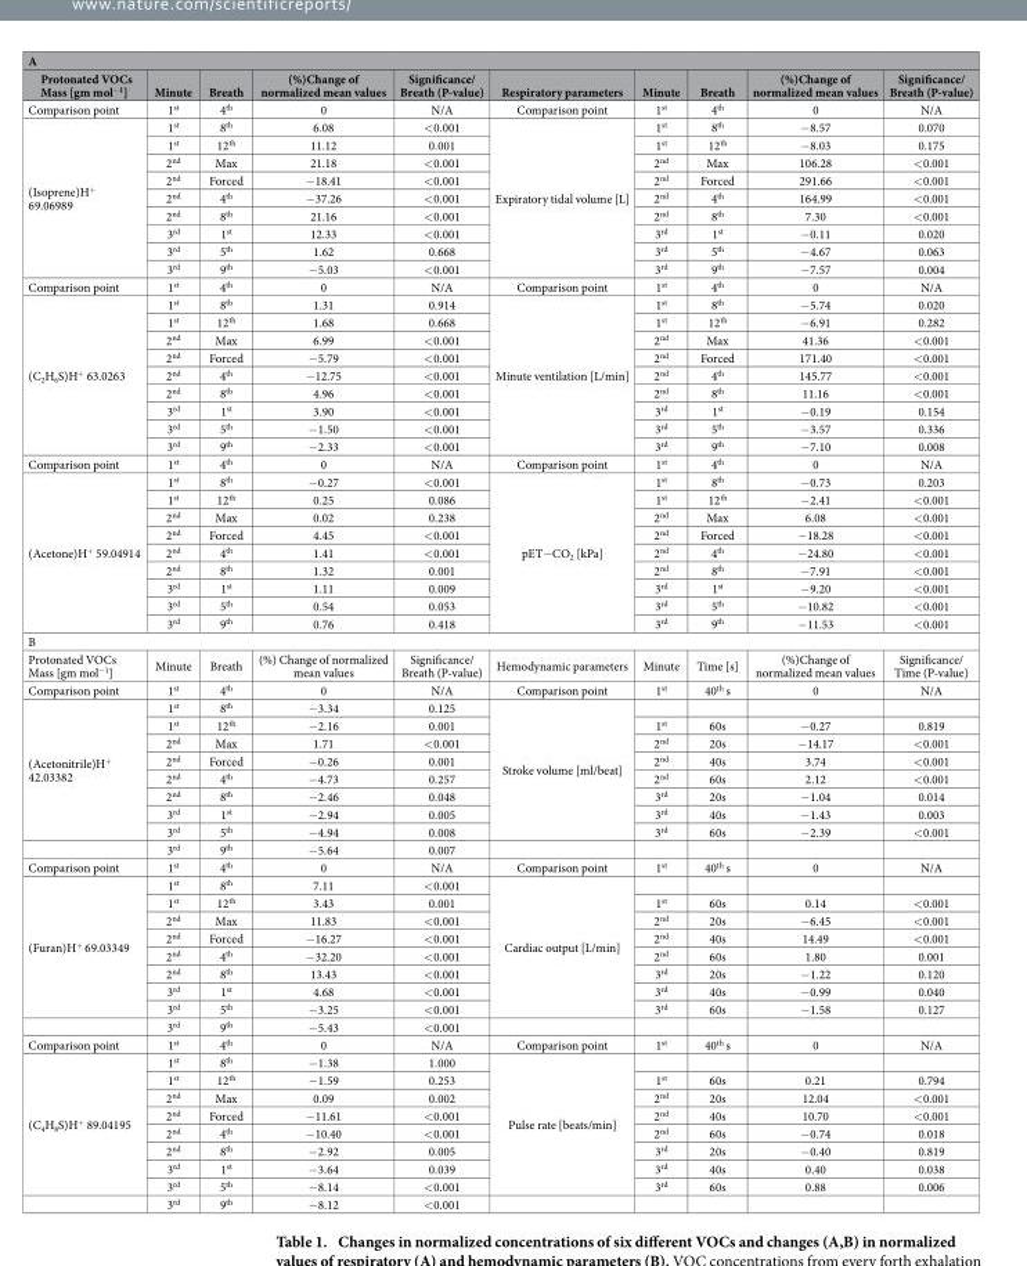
<table><thead><tr><td colspan="10">A</td></tr><tr><td>Protonated VOCs Mass [gm mol<sup>−1</sup>]</td><td>Minute</td><td>Breath</td><td>(%)Change of normalized mean values</td><td>Significance/ Breath (P-value)</td><td>Respiratory parameters</td><td>Minute</td><td>Breath</td><td>(%)Change of normalized mean values</td><td>Significance/ Breath (P-value)</td></tr></thead><tbody><tr><td>Comparison point</td><td>1<sup>st</sup></td><td>4<sup>th</sup></td><td>0</td><td>N/A</td><td>Comparison point</td><td>1<sup>st</sup></td><td>4<sup>th</sup></td><td>0</td><td>N/A</td></tr><tr><td rowspan="9">(Isoprene)H<sup>+</sup> 69.06989</td><td>1<sup>st</sup></td><td>8<sup>th</sup></td><td>6.08</td><td>&lt; 0.001</td><td rowspan="9">Expiratory tidal volume [L]</td><td>1<sup>st</sup></td><td>8<sup>th</sup></td><td>− 8.57</td><td>0.070</td></tr><tr><td>1<sup>st</sup></td><td>12<sup>th</sup></td><td>11.12</td><td>0.001</td><td>1<sup>st</sup></td><td>12<sup>th</sup></td><td>− 8.03</td><td>0.175</td></tr><tr><td>2<sup>nd</sup></td><td>Max</td><td>21.18</td><td>&lt; 0.001</td><td>2<sup>nd</sup></td><td>Max</td><td>106.28</td><td>&lt; 0.001</td></tr><tr><td>2<sup>nd</sup></td><td>Forced</td><td>− 18.41</td><td>&lt; 0.001</td><td>2<sup>nd</sup></td><td>Forced</td><td>291.66</td><td>&lt; 0.001</td></tr><tr><td>2<sup>nd</sup></td><td>4<sup>th</sup></td><td>− 37.26</td><td>&lt; 0.001</td><td>2<sup>nd</sup></td><td>4<sup>th</sup></td><td>164.99</td><td>&lt; 0.001</td></tr><tr><td>2<sup>nd</sup></td><td>8<sup>th</sup></td><td>21.16</td><td>&lt; 0.001</td><td>2<sup>nd</sup></td><td>8<sup>th</sup></td><td>7.30</td><td>&lt; 0.001</td></tr><tr><td>3<sup>rd</sup></td><td>1<sup>st</sup></td><td>12.33</td><td>&lt; 0.001</td><td>3<sup>rd</sup></td><td>1<sup>st</sup></td><td>− 0.11</td><td>0.020</td></tr><tr><td>3<sup>rd</sup></td><td>5<sup>th</sup></td><td>1.62</td><td>0.668</td><td>3<sup>rd</sup></td><td>5<sup>th</sup></td><td>− 4.67</td><td>0.063</td></tr><tr><td>3<sup>rd</sup></td><td>9<sup>th</sup></td><td>− 5.03</td><td>&lt; 0.001</td><td>3<sup>rd</sup></td><td>9<sup>th</sup></td><td>− 7.57</td><td>0.004</td></tr><tr><td>Comparison point</td><td>1<sup>st</sup></td><td>4<sup>th</sup></td><td>0</td><td>N/A</td><td>Comparison point</td><td>1<sup>st</sup></td><td>4<sup>th</sup></td><td>0</td><td>N/A</td></tr><tr><td rowspan="9">(C<sub>2</sub>H<sub>6</sub>S)H<sup>+</sup> 63.0263</td><td>1<sup>st</sup></td><td>8<sup>th</sup></td><td>1.31</td><td>0.914</td><td rowspan="9">Minute ventilation [L/min]</td><td>1<sup>st</sup></td><td>8<sup>th</sup></td><td>− 5.74</td><td>0.020</td></tr><tr><td>1<sup>st</sup></td><td>12<sup>th</sup></td><td>1.68</td><td>0.668</td><td>1<sup>st</sup></td><td>12<sup>th</sup></td><td>− 6.91</td><td>0.282</td></tr><tr><td>2<sup>nd</sup></td><td>Max</td><td>6.99</td><td>&lt; 0.001</td><td>2<sup>nd</sup></td><td>Max</td><td>41.36</td><td>&lt; 0.001</td></tr><tr><td>2<sup>nd</sup></td><td>Forced</td><td>− 5.79</td><td>&lt; 0.001</td><td>2<sup>nd</sup></td><td>Forced</td><td>171.40</td><td>&lt; 0.001</td></tr><tr><td>2<sup>nd</sup></td><td>4<sup>th</sup></td><td>− 12.75</td><td>&lt; 0.001</td><td>2<sup>nd</sup></td><td>4<sup>th</sup></td><td>145.77</td><td>&lt; 0.001</td></tr><tr><td>2<sup>nd</sup></td><td>8<sup>th</sup></td><td>4.96</td><td>&lt; 0.001</td><td>2<sup>nd</sup></td><td>8<sup>th</sup></td><td>11.16</td><td>&lt; 0.001</td></tr><tr><td>3<sup>rd</sup></td><td>1<sup>st</sup></td><td>3.90</td><td>&lt; 0.001</td><td>3<sup>rd</sup></td><td>1<sup>st</sup></td><td>− 0.19</td><td>0.154</td></tr><tr><td>3<sup>rd</sup></td><td>5<sup>th</sup></td><td>− 1.50</td><td>&lt; 0.001</td><td>3<sup>rd</sup></td><td>5<sup>th</sup></td><td>− 3.57</td><td>0.336</td></tr><tr><td>3<sup>rd</sup></td><td>9<sup>th</sup></td><td>− 2.33</td><td>&lt; 0.001</td><td>3<sup>rd</sup></td><td>9<sup>th</sup></td><td>− 7.10</td><td>0.008</td></tr><tr><td>Comparison point</td><td>1<sup>st</sup></td><td>4<sup>th</sup></td><td>0</td><td>N/A</td><td>Comparison point</td><td>1<sup>st</sup></td><td>4<sup>th</sup></td><td>0</td><td>N/A</td></tr><tr><td rowspan="9">(Acetone)H<sup>+</sup> 59.04914</td><td>1<sup>st</sup></td><td>8<sup>th</sup></td><td>− 0.27</td><td>&lt; 0.001</td><td rowspan="9">pET− CO<sub>2</sub> [kPa]</td><td>1<sup>st</sup></td><td>8<sup>th</sup></td><td>− 0.73</td><td>0.203</td></tr><tr><td>1<sup>st</sup></td><td>12<sup>th</sup></td><td>0.25</td><td>0.086</td><td>1<sup>st</sup></td><td>12<sup>th</sup></td><td>− 2.41</td><td>&lt; 0.001</td></tr><tr><td>2<sup>nd</sup></td><td>Max</td><td>0.02</td><td>0.238</td><td>2<sup>nd</sup></td><td>Max</td><td>6.08</td><td>&lt; 0.001</td></tr><tr><td>2<sup>nd</sup></td><td>Forced</td><td>4.45</td><td>&lt; 0.001</td><td>2<sup>nd</sup></td><td>Forced</td><td>− 18.28</td><td>&lt; 0.001</td></tr><tr><td>2<sup>nd</sup></td><td>4<sup>th</sup></td><td>1.41</td><td>&lt; 0.001</td><td>2<sup>nd</sup></td><td>4<sup>th</sup></td><td>− 24.80</td><td>&lt; 0.001</td></tr><tr><td>2<sup>nd</sup></td><td>8<sup>th</sup></td><td>1.32</td><td>0.001</td><td>2<sup>nd</sup></td><td>8<sup>th</sup></td><td>− 7.91</td><td>&lt; 0.001</td></tr><tr><td>3<sup>rd</sup></td><td>1<sup>st</sup></td><td>1.11</td><td>0.009</td><td>3<sup>rd</sup></td><td>1<sup>st</sup></td><td>− 9.20</td><td>&lt; 0.001</td></tr><tr><td>3<sup>rd</sup></td><td>5<sup>th</sup></td><td>0.54</td><td>0.053</td><td>3<sup>rd</sup></td><td>5<sup>th</sup></td><td>− 10.82</td><td>&lt; 0.001</td></tr><tr><td>3<sup>rd</sup></td><td>9<sup>th</sup></td><td>0.76</td><td>0.418</td><td>3<sup>rd</sup></td><td>9<sup>th</sup></td><td>− 11.53</td><td>&lt; 0.001</td></tr><tr><td colspan="10">B</td></tr><tr><td>Protonated VOCs Mass [gm mol<sup>−1</sup>]</td><td>Minute</td><td>Breath</td><td>(%) Change of normalized mean values</td><td>Significance/ Breath (P-value)</td><td>Hemodynamic parameters</td><td>Minute</td><td>Time [s]</td><td>(%)Change of normalized mean values</td><td>Significance/ Time (P-value)</td></tr><tr><td>Comparison point</td><td>1<sup>st</sup></td><td>4<sup>th</sup></td><td>0</td><td>N/A</td><td>Comparison point</td><td>1<sup>st</sup></td><td>40<sup>th</sup> s</td><td>0</td><td>N/A</td></tr><tr><td rowspan="9">(Acetonitrile)H<sup>+</sup> 42.03382</td><td>1<sup>st</sup></td><td>8<sup>th</sup></td><td>− 3.34</td><td>0.125</td><td rowspan="8">Stroke volume [ml/beat]</td><td></td><td></td><td></td><td></td></tr><tr><td>1<sup>st</sup></td><td>12<sup>th</sup></td><td>− 2.16</td><td>0.001</td><td>1<sup>st</sup></td><td>60s</td><td>− 0.27</td><td>0.819</td></tr><tr><td>2<sup>nd</sup></td><td>Max</td><td>1.71</td><td>&lt; 0.001</td><td>2<sup>nd</sup></td><td>20s</td><td>− 14.17</td><td>&lt; 0.001</td></tr><tr><td>2<sup>nd</sup></td><td>Forced</td><td>− 0.26</td><td>0.001</td><td>2<sup>nd</sup></td><td>40s</td><td>3.74</td><td>&lt; 0.001</td></tr><tr><td>2<sup>nd</sup></td><td>4<sup>th</sup></td><td>− 4.73</td><td>0.257</td><td>2<sup>nd</sup></td><td>60s</td><td>2.12</td><td>&lt; 0.001</td></tr><tr><td>2<sup>nd</sup></td><td>8<sup>th</sup></td><td>− 2.46</td><td>0.048</td><td>3<sup>rd</sup></td><td>20s</td><td>− 1.04</td><td>0.014</td></tr><tr><td>3<sup>rd</sup></td><td>1<sup>st</sup></td><td>− 2.94</td><td>0.005</td><td>3<sup>rd</sup></td><td>40s</td><td>− 1.43</td><td>0.003</td></tr><tr><td>3<sup>rd</sup></td><td>5<sup>th</sup></td><td>− 4.94</td><td>0.008</td><td>3<sup>rd</sup></td><td>60s</td><td>− 2.39</td><td>&lt; 0.001</td></tr><tr><td>3<sup>rd</sup></td><td>9<sup>th</sup></td><td>− 5.64</td><td>0.007</td><td></td><td></td><td></td><td></td><td></td></tr><tr><td>Comparison point</td><td>1<sup>st</sup></td><td>4<sup>th</sup></td><td>0</td><td>N/A</td><td>Comparison point</td><td>1<sup>st</sup></td><td>40<sup>th</sup> s</td><td>0</td><td>N/A</td></tr><tr><td rowspan="9">(Furan)H<sup>+</sup> 69.03349</td><td>1<sup>st</sup></td><td>8<sup>th</sup></td><td>7.11</td><td>&lt; 0.001</td><td rowspan="8">Cardiac output [L/min]</td><td></td><td></td><td></td><td></td></tr><tr><td>1<sup>st</sup></td><td>12<sup>th</sup></td><td>3.43</td><td>0.001</td><td>1<sup>st</sup></td><td>60s</td><td>0.14</td><td>&lt; 0.001</td></tr><tr><td>2<sup>nd</sup></td><td>Max</td><td>11.83</td><td>&lt; 0.001</td><td>2<sup>nd</sup></td><td>20s</td><td>− 6.45</td><td>&lt; 0.001</td></tr><tr><td>2<sup>nd</sup></td><td>Forced</td><td>− 16.27</td><td>&lt; 0.001</td><td>2<sup>nd</sup></td><td>40s</td><td>14.49</td><td>&lt; 0.001</td></tr><tr><td>2<sup>nd</sup></td><td>4<sup>th</sup></td><td>− 32.20</td><td>&lt; 0.001</td><td>2<sup>nd</sup></td><td>60s</td><td>1.80</td><td>0.001</td></tr><tr><td>2<sup>nd</sup></td><td>8<sup>th</sup></td><td>13.43</td><td>&lt; 0.001</td><td>3<sup>rd</sup></td><td>20s</td><td>− 1.22</td><td>0.120</td></tr><tr><td>3<sup>rd</sup></td><td>1<sup>st</sup></td><td>4.68</td><td>&lt; 0.001</td><td>3<sup>rd</sup></td><td>40s</td><td>− 0.99</td><td>0.040</td></tr><tr><td>3<sup>rd</sup></td><td>5<sup>th</sup></td><td>− 3.25</td><td>&lt; 0.001</td><td>3<sup>rd</sup></td><td>60s</td><td>− 1.58</td><td>0.127</td></tr><tr><td>3<sup>rd</sup></td><td>9<sup>th</sup></td><td>− 5.43</td><td>&lt; 0.001</td><td></td><td></td><td></td><td></td><td></td></tr><tr><td>Comparison point</td><td>1<sup>st</sup></td><td>4<sup>th</sup></td><td>0</td><td>N/A</td><td>Comparison point</td><td>1<sup>st</sup></td><td>40<sup>th</sup> s</td><td>0</td><td>N/A</td></tr><tr><td rowspan="9">(C<sub>4</sub>H<sub>8</sub>S)H<sup>+</sup> 89.04195</td><td>1<sup>st</sup></td><td>8<sup>th</sup></td><td>− 1.38</td><td>1.000</td><td rowspan="8">Pulse rate [beats/min]</td><td></td><td></td><td></td><td></td></tr><tr><td>1<sup>st</sup></td><td>12<sup>th</sup></td><td>− 1.59</td><td>0.253</td><td>1<sup>st</sup></td><td>60s</td><td>0.21</td><td>0.794</td></tr><tr><td>2<sup>nd</sup></td><td>Max</td><td>0.09</td><td>0.002</td><td>2<sup>nd</sup></td><td>20s</td><td>12.04</td><td>&lt; 0.001</td></tr><tr><td>2<sup>nd</sup></td><td>Forced</td><td>− 11.61</td><td>&lt; 0.001</td><td>2<sup>nd</sup></td><td>40s</td><td>10.70</td><td>&lt; 0.001</td></tr><tr><td>2<sup>nd</sup></td><td>4<sup>th</sup></td><td>− 10.40</td><td>&lt; 0.001</td><td>2<sup>nd</sup></td><td>60s</td><td>− 0.74</td><td>0.018</td></tr><tr><td>2<sup>nd</sup></td><td>8<sup>th</sup></td><td>− 2.92</td><td>0.005</td><td>3<sup>rd</sup></td><td>20s</td><td>− 0.40</td><td>0.819</td></tr><tr><td>3<sup>rd</sup></td><td>1<sup>st</sup></td><td>− 3.64</td><td>0.039</td><td>3<sup>rd</sup></td><td>40s</td><td>0.40</td><td>0.038</td></tr><tr><td>3<sup>rd</sup></td><td>5<sup>th</sup></td><td>− 8.14</td><td>&lt; 0.001</td><td>3<sup>rd</sup></td><td>60s</td><td>0.88</td><td>0.006</td></tr><tr><td>3<sup>rd</sup></td><td>9<sup>th</sup></td><td>− 8.12</td><td>&lt; 0.001</td><td></td><td></td><td></td><td></td><td></td></tr></tbody></table>